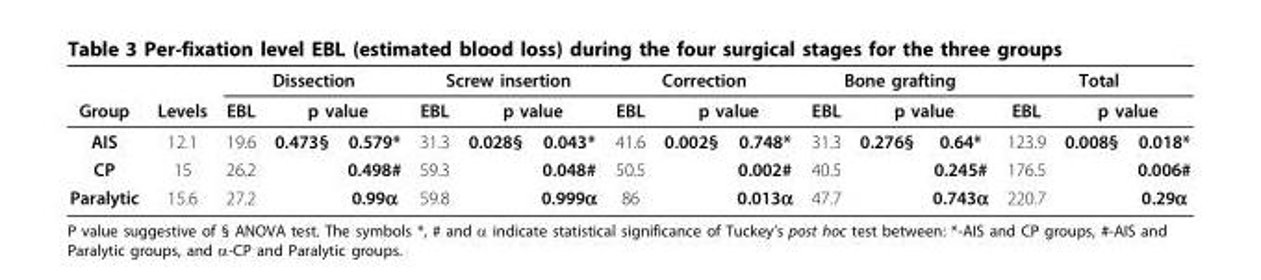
<table><thead><tr><td rowspan="3">Group AIS</td><td rowspan="3">Levels 12.1</td><td colspan="3">Dissection</td><td colspan="3">Screw insertion</td><td colspan="3">Correction</td><td colspan="3">Bone grafting</td><td colspan="3">Total</td></tr><tr><td rowspan="2">EBL 19.6</td><td colspan="2">p value</td><td rowspan="2">EBL 31.3</td><td colspan="2">p value</td><td rowspan="2">EBL 41.6</td><td colspan="2">p value</td><td rowspan="2">EBL 31.3</td><td colspan="2">p value</td><td rowspan="2">EBL 123.9</td><td colspan="2">p value</td></tr><tr><td>0.473§</td><td>0.579*</td><td>0.028§</td><td>0.043*</td><td>0.002§</td><td>0.748*</td><td>0.276§</td><td>0.64*</td><td>0.008§</td><td>0.018*</td></tr></thead><tbody><tr><td>CP</td><td>15</td><td>26.2</td><td></td><td>0.498#</td><td>59.3</td><td></td><td>0.048#</td><td>50.5</td><td></td><td>0.002#</td><td>40.5</td><td></td><td>0.245#</td><td>176.5</td><td></td><td>0.006#</td></tr><tr><td>Paralytic</td><td>15.6</td><td>27.2</td><td></td><td>0.99α</td><td>59.8</td><td></td><td>0.999α</td><td>86</td><td></td><td>0.013α</td><td>47.7</td><td></td><td>0.743α</td><td>220.7</td><td></td><td>0.29α</td></tr></tbody></table>